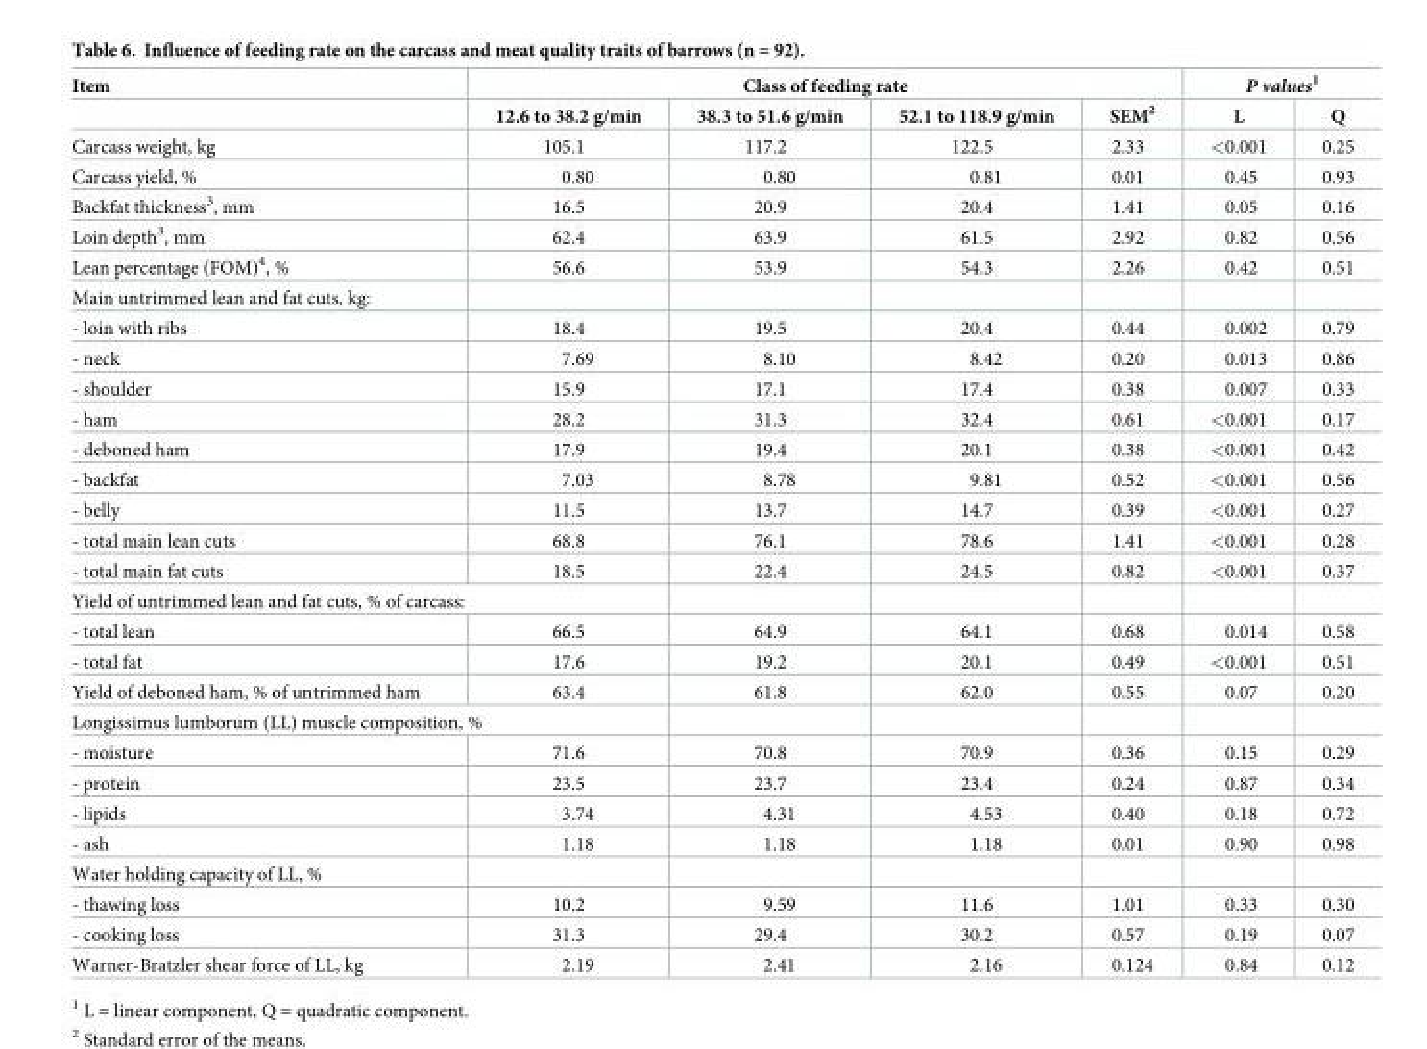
<table><thead><tr><td rowspan="2">Item</td><td colspan="4">Class of feeding rate</td><td colspan="2">P values<sup>1</sup></td></tr><tr><td>12.6 to 38.2 g/min</td><td>38.3 to 51.6 g/min</td><td>52.1 to 118.9 g/min</td><td>SEM<sup>2</sup></td><td>L</td><td>Q</td></tr></thead><tbody><tr><td>Carcass weight, kg</td><td>105.1</td><td>117.2</td><td>122.5</td><td>2.33</td><td>&lt;0.001</td><td>0.25</td></tr><tr><td>Carcass yield, %</td><td>0.80</td><td>0.80</td><td>0.81</td><td>0.01</td><td>0.45</td><td>0.93</td></tr><tr><td>Backfat thickness<sup>3</sup>, mm</td><td>16.5</td><td>20.9</td><td>20.4</td><td>1.41</td><td>0.05</td><td>0.16</td></tr><tr><td>Loin depth<sup>3</sup>, mm</td><td>62.4</td><td>63.9</td><td>61.5</td><td>2.92</td><td>0.82</td><td>0.56</td></tr><tr><td>Lean percentage (FOM)<sup>4</sup>, %</td><td>56.6</td><td>53.9</td><td>54.3</td><td>2.26</td><td>0.42</td><td>0.51</td></tr><tr><td colspan="7">Main untrimmed lean and fat cuts, kg:</td></tr><tr><td>- loin with ribs</td><td>18.4</td><td>19.5</td><td>20.4</td><td>0.44</td><td>0.002</td><td>0.79</td></tr><tr><td>- neck</td><td>7.69</td><td>8.10</td><td>8.42</td><td>0.20</td><td>0.013</td><td>0.86</td></tr><tr><td>- shoulder</td><td>15.9</td><td>17.1</td><td>17.4</td><td>0.38</td><td>0.007</td><td>0.33</td></tr><tr><td>- ham</td><td>28.2</td><td>31.3</td><td>32.4</td><td>0.61</td><td>&lt;0.001</td><td>0.17</td></tr><tr><td>- deboned ham</td><td>17.9</td><td>19.4</td><td>20.1</td><td>0.38</td><td>&lt;0.001</td><td>0.42</td></tr><tr><td>- backfat</td><td>7.03</td><td>8.78</td><td>9.81</td><td>0.52</td><td>&lt;0.001</td><td>0.56</td></tr><tr><td>- belly</td><td>11.5</td><td>13.7</td><td>14.7</td><td>0.39</td><td>&lt;0.001</td><td>0.27</td></tr><tr><td>- total main lean cuts</td><td>68.8</td><td>76.1</td><td>78.6</td><td>1.41</td><td>&lt;0.001</td><td>0.28</td></tr><tr><td>- total main fat cuts</td><td>18.5</td><td>22.4</td><td>24.5</td><td>0.82</td><td>&lt;0.001</td><td>0.37</td></tr><tr><td colspan="7">Yield of untrimmed lean and fat cuts, % of carcass:</td></tr><tr><td>- total lean</td><td>66.5</td><td>64.9</td><td>64.1</td><td>0.68</td><td>0.014</td><td>0.58</td></tr><tr><td>- total fat</td><td>17.6</td><td>19.2</td><td>20.1</td><td>0.49</td><td>&lt;0.001</td><td>0.51</td></tr><tr><td>Yield of deboned ham, % of untrimmed ham</td><td>63.4</td><td>61.8</td><td>62.0</td><td>0.55</td><td>0.07</td><td>0.20</td></tr><tr><td colspan="7">Longissimus lumborum (LL) muscle composition, %</td></tr><tr><td>- moisture</td><td>71.6</td><td>70.8</td><td>70.9</td><td>0.36</td><td>0.15</td><td>0.29</td></tr><tr><td>- protein</td><td>23.5</td><td>23.7</td><td>23.4</td><td>0.24</td><td>0.87</td><td>0.34</td></tr><tr><td>- lipids</td><td>3.74</td><td>4.31</td><td>4.53</td><td>0.40</td><td>0.18</td><td>0.72</td></tr><tr><td>- ash</td><td>1.18</td><td>1.18</td><td>1.18</td><td>0.01</td><td>0.90</td><td>0.98</td></tr><tr><td colspan="7">Water holding capacity of LL, %</td></tr><tr><td>- thawing loss</td><td>10.2</td><td>9.59</td><td>11.6</td><td>1.01</td><td>0.33</td><td>0.30</td></tr><tr><td>- cooking loss</td><td>31.3</td><td>29.4</td><td>30.2</td><td>0.57</td><td>0.19</td><td>0.07</td></tr><tr><td>Warner-Bratzler shear force of LL, kg</td><td>2.19</td><td>2.41</td><td>2.16</td><td>0.124</td><td>0.84</td><td>0.12</td></tr></tbody></table>